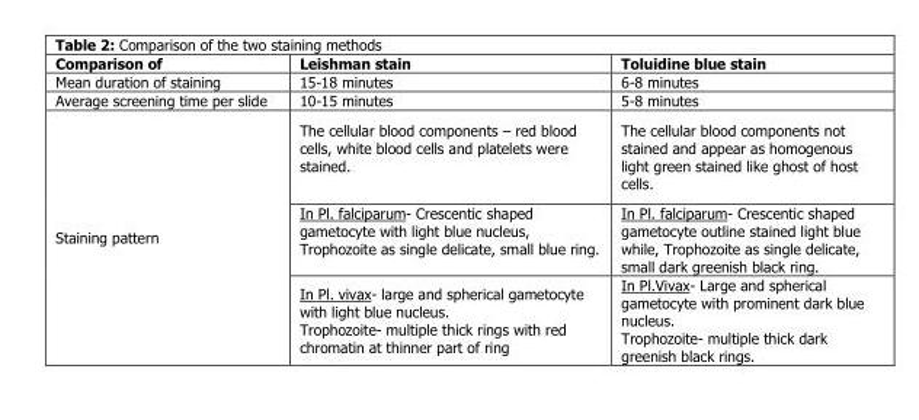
<table><thead><tr><td>Comparison of</td><td>Leishman stain</td><td>Toluidine blue stain</td></tr></thead><tbody><tr><td>Mean duration of staining</td><td>15-18 minutes</td><td>6-8 minutes</td></tr><tr><td>Average screening time per slide</td><td>10-15 minutes</td><td>5-8 minutes</td></tr><tr><td rowspan="3">Staining pattern</td><td>The cellular blood components – red blood cells, white blood cells and platelets were stained.</td><td>The cellular blood components not stained and appear as homogenous light green stained like ghost of host cells.</td></tr><tr><td>In Pl. falciparum- Crescentic shaped gametocyte with light blue nucleus, Trophozoite as single delicate, small blue ring.</td><td>In Pl. falciparum- Crescentic shaped gametocyte outline stained light blue while, Trophozoite as single delicate, small dark greenish black ring.</td></tr><tr><td>In Pl. vivax- large and spherical gametocyte with light blue nucleus. Trophozoite- multiple thick rings with red chromatin at thinner part of ring</td><td>In Pl.Vivax- Large and spherical gametocyte with prominent dark blue nucleus. Trophozoite- multiple thick dark greenish black rings.</td></tr></tbody></table>